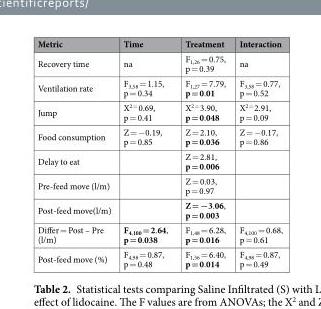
<table><thead><tr><td>Metric</td><td>Time</td><td>Treatment</td><td>Interaction</td></tr></thead><tbody><tr><td>Recovery time</td><td>na</td><td>F<sub>1,26</sub> = 0.75, p = 0.39</td><td>na</td></tr><tr><td>Ventilation rate</td><td>F<sub>3,58</sub> = 1.15, p = 0.34</td><td>F<sub>1,27</sub> = 7.79, p = 0.01</td><td>F<sub>3,58</sub> = 0.77, p = 0.52</td></tr><tr><td>Jump</td><td>X<sup>2 =</sup> 0.69, p = 0.41</td><td>X<sup>2 =</sup> 3.90, p = 0.048</td><td>X<sup>2 =</sup> 2.91, p = 0.09</td></tr><tr><td>Food consumption</td><td>Z = −0.19, p = 0.85</td><td>Z = 2.10, p = 0.036</td><td>Z = −0.17, p = 0.86</td></tr><tr><td>Delay to eat</td><td></td><td>Z = 2.81, p = 0.006</td><td></td></tr><tr><td>Pre-feed move (l/m)</td><td></td><td>Z = 0.03, p = 0.97</td><td></td></tr><tr><td>Post-feed move(l/m)</td><td></td><td>Z = −3.06, p = 0.003</td><td></td></tr><tr><td>Differ = Post – Pre (l/m)</td><td>F<sub>4,100</sub> = 2.64, p = 0.038</td><td>F<sub>1,48</sub> = 6.28, p = 0.016</td><td>F<sub>4,100</sub> = 0.68, p = 0.61</td></tr><tr><td>Post-feed move (%)</td><td>F<sub>4,98</sub> = 0.87, p = 0.48</td><td>F<sub>1,56</sub> = 6.40, p = 0.014</td><td>F<sub>4,98</sub> = 0.87, p = 0.49</td></tr></tbody></table>